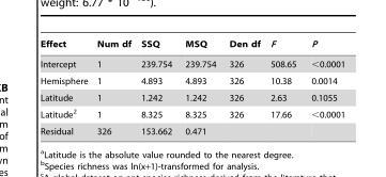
<table><thead><tr><td>Effect</td><td>Num df</td><td>SSQ</td><td>MSQ</td><td>Den df</td><td>F</td><td>P</td></tr></thead><tbody><tr><td>Intercept</td><td>1</td><td>239.754</td><td>239.754</td><td>326</td><td>508.65</td><td>&lt;0.0001</td></tr><tr><td>Hemisphere</td><td>1</td><td>4.893</td><td>4.893</td><td>326</td><td>10.38</td><td>0.0014</td></tr><tr><td>Latitude</td><td>1</td><td>1.242</td><td>1.242</td><td>326</td><td>2.63</td><td>0.1055</td></tr><tr><td>Latitude<sup>2</sup></td><td>1</td><td>8.325</td><td>8.325</td><td>326</td><td>17.66</td><td>&lt;0.0001</td></tr><tr><td>Residual</td><td>326</td><td>153.662</td><td>0.471</td><td></td><td></td><td></td></tr></tbody></table>